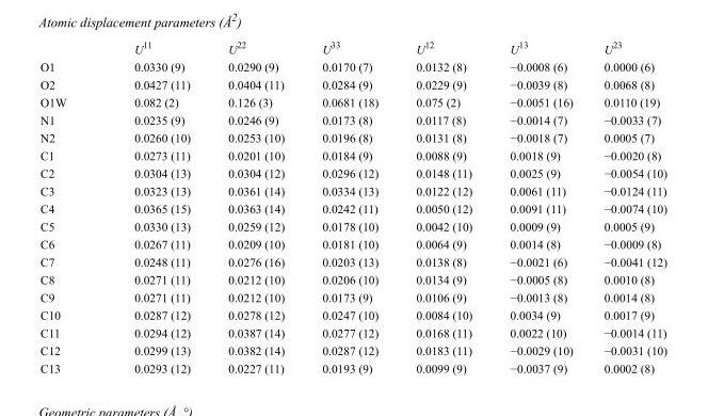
<table><thead><tr><td></td><td>U<sup>11</sup></td><td>U<sup>22</sup></td><td>U<sup>33</sup></td><td>U<sup>12</sup></td><td>U<sup>13</sup></td><td>U<sup>23</sup></td></tr></thead><tbody><tr><td>O1</td><td>0.0330 (9)</td><td>0.0290 (9)</td><td>0.0170 (7)</td><td>0.0132 (8)</td><td>−0.0008 (6)</td><td>0.0000 (6)</td></tr><tr><td>O2</td><td>0.0427 (11)</td><td>0.0404 (11)</td><td>0.0284 (9)</td><td>0.0229 (9)</td><td>−0.0039 (8)</td><td>0.0068 (8)</td></tr><tr><td>O1W</td><td>0.082 (2)</td><td>0.126 (3)</td><td>0.0681 (18)</td><td>0.075 (2)</td><td>−0.0051 (16)</td><td>0.0110 (19)</td></tr><tr><td>N1</td><td>0.0235 (9)</td><td>0.0246 (9)</td><td>0.0173 (8)</td><td>0.0117 (8)</td><td>−0.0014 (7)</td><td>−0.0033 (7)</td></tr><tr><td>N2</td><td>0.0260 (10)</td><td>0.0253 (10)</td><td>0.0196 (8)</td><td>0.0131 (8)</td><td>−0.0018 (7)</td><td>0.0005 (7)</td></tr><tr><td>C1</td><td>0.0273 (11)</td><td>0.0201 (10)</td><td>0.0184 (9)</td><td>0.0088 (9)</td><td>0.0018 (9)</td><td>−0.0020 (8)</td></tr><tr><td>C2</td><td>0.0304 (13)</td><td>0.0304 (12)</td><td>0.0296 (12)</td><td>0.0148 (11)</td><td>0.0025 (9)</td><td>−0.0054 (10)</td></tr><tr><td>C3</td><td>0.0323 (13)</td><td>0.0361 (14)</td><td>0.0334 (13)</td><td>0.0122 (12)</td><td>0.0061 (11)</td><td>−0.0124 (11)</td></tr><tr><td>C4</td><td>0.0365 (15)</td><td>0.0363 (14)</td><td>0.0242 (11)</td><td>0.0050 (12)</td><td>0.0091 (11)</td><td>−0.0074 (10)</td></tr><tr><td>C5</td><td>0.0330 (13)</td><td>0.0259 (12)</td><td>0.0178 (10)</td><td>0.0042 (10)</td><td>0.0009 (9)</td><td>0.0005 (9)</td></tr><tr><td>C6</td><td>0.0267 (11)</td><td>0.0209 (10)</td><td>0.0181 (10)</td><td>0.0064 (9)</td><td>0.0014 (8)</td><td>−0.0009 (8)</td></tr><tr><td>C7</td><td>0.0248 (11)</td><td>0.0276 (16)</td><td>0.0203 (13)</td><td>0.0138 (8)</td><td>−0.0021 (6)</td><td>−0.0041 (12)</td></tr><tr><td>C8</td><td>0.0271 (11)</td><td>0.0212 (10)</td><td>0.0206 (10)</td><td>0.0134 (9)</td><td>−0.0005 (8)</td><td>0.0010 (8)</td></tr><tr><td>C9</td><td>0.0271 (11)</td><td>0.0212 (10)</td><td>0.0173 (9)</td><td>0.0106 (9)</td><td>−0.0013 (8)</td><td>0.0014 (8)</td></tr><tr><td>C10</td><td>0.0287 (12)</td><td>0.0278 (12)</td><td>0.0247 (10)</td><td>0.0084 (10)</td><td>0.0034 (9)</td><td>0.0017 (9)</td></tr><tr><td>C11</td><td>0.0294 (12)</td><td>0.0387 (14)</td><td>0.0277 (12)</td><td>0.0168 (11)</td><td>0.0022 (10)</td><td>−0.0014 (11)</td></tr><tr><td>C12</td><td>0.0299 (13)</td><td>0.0382 (14)</td><td>0.0287 (12)</td><td>0.0183 (11)</td><td>−0.0029 (10)</td><td>−0.0031 (10)</td></tr><tr><td>C13</td><td>0.0293 (12)</td><td>0.0227 (11)</td><td>0.0193 (9)</td><td>0.0099 (9)</td><td>−0.0037 (9)</td><td>0.0002 (8)</td></tr></tbody></table>